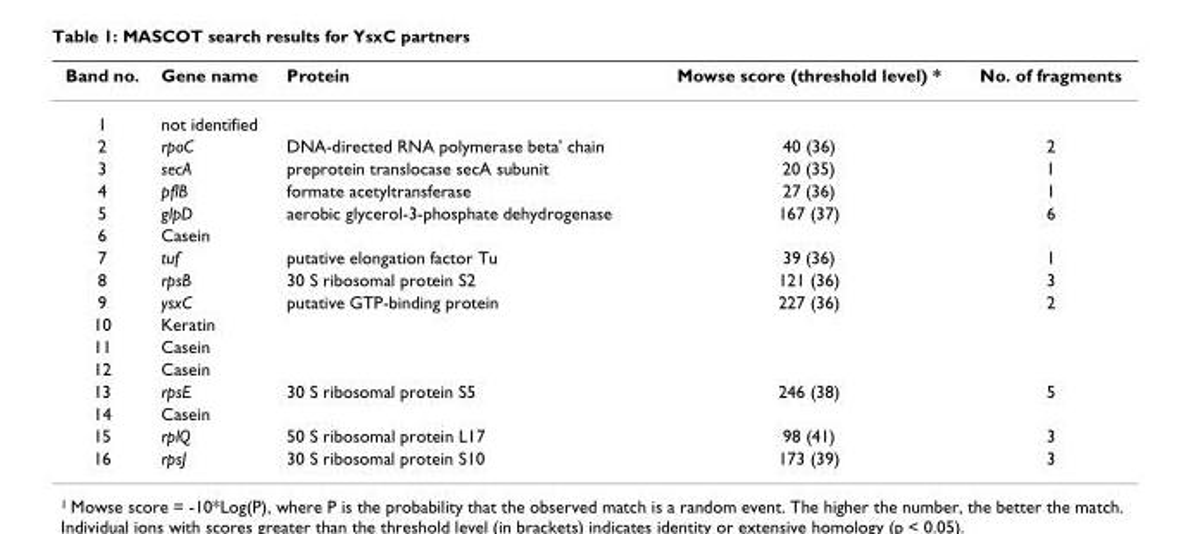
<table><thead><tr><td>Band no.</td><td>Gene name</td><td>Protein</td><td>Mowse score (threshold level) *</td><td>No. of fragments</td></tr></thead><tbody><tr><td>1</td><td>not identified</td><td></td><td></td><td></td></tr><tr><td>2</td><td>rpoC</td><td>DNA-directed RNA polymerase beta&#x27; chain</td><td>40 (36)</td><td>2</td></tr><tr><td>3</td><td>secA</td><td>preprotein translocase secA subunit</td><td>20 (35)</td><td>1</td></tr><tr><td>4</td><td>pflB</td><td>formate acetyltransferase</td><td>27 (36)</td><td>1</td></tr><tr><td>5</td><td>glpD</td><td>aerobic glycerol-3-phosphate dehydrogenase</td><td>167 (37)</td><td>6</td></tr><tr><td>6</td><td>Casein</td><td></td><td></td><td></td></tr><tr><td>7</td><td>tuf</td><td>putative elongation factor Tu</td><td>39 (36)</td><td>1</td></tr><tr><td>8</td><td>rpsB</td><td>30 S ribosomal protein S2</td><td>121 (36)</td><td>3</td></tr><tr><td>9</td><td>ysxC</td><td>putative GTP-binding protein</td><td>227 (36)</td><td>2</td></tr><tr><td>10</td><td>Keratin</td><td></td><td></td><td></td></tr><tr><td>11</td><td>Casein</td><td></td><td></td><td></td></tr><tr><td>12</td><td>Casein</td><td></td><td></td><td></td></tr><tr><td>13</td><td>rpsE</td><td>30 S ribosomal protein S5</td><td>246 (38)</td><td>5</td></tr><tr><td>14</td><td>Casein</td><td></td><td></td><td></td></tr><tr><td>15</td><td>rplQ</td><td>50 S ribosomal protein L17</td><td>98 (41)</td><td>3</td></tr><tr><td>16</td><td>rpsJ</td><td>30 S ribosomal protein S10</td><td>173 (39)</td><td>3</td></tr></tbody></table>